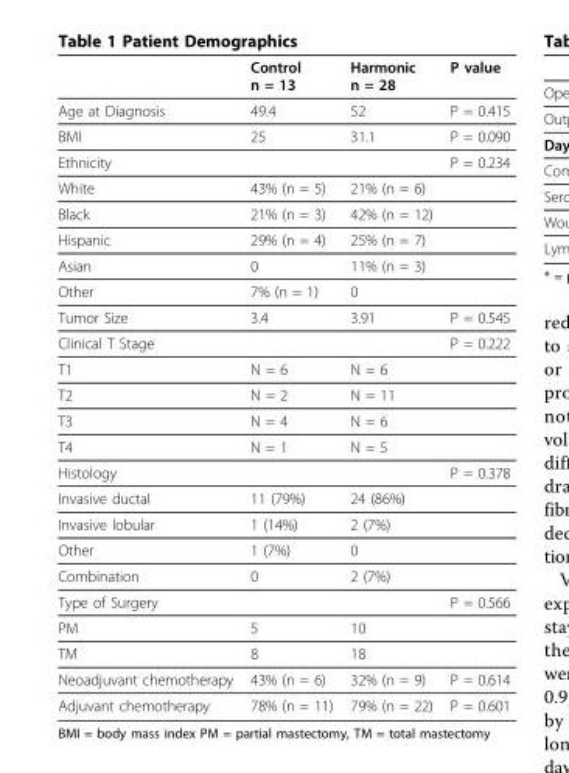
<table><thead><tr><td></td><td>Control n = 13</td><td>Harmonic n = 28</td><td>P value</td></tr></thead><tbody><tr><td>Age at Diagnosis</td><td>49.4</td><td>52</td><td>P = 0.415</td></tr><tr><td>BMI</td><td>25</td><td>31.1</td><td>P = 0.090</td></tr><tr><td>Ethnicity</td><td></td><td></td><td>P = 0.234</td></tr><tr><td>White</td><td>43% (n = 5)</td><td>21% (n = 6)</td><td></td></tr><tr><td>Black</td><td>21% (n = 3)</td><td>42% (n = 12)</td><td></td></tr><tr><td>Hispanic</td><td>29% (n = 4)</td><td>25% (n = 7)</td><td></td></tr><tr><td>Asian</td><td>0</td><td>11% (n = 3)</td><td></td></tr><tr><td>Other</td><td>7% (n = 1)</td><td>0</td><td></td></tr><tr><td>Tumor Size</td><td>3.4</td><td>3.91</td><td>P = 0.545</td></tr><tr><td>Clinical T Stage</td><td></td><td></td><td>P = 0.222</td></tr><tr><td>T1</td><td>N = 6</td><td>N = 6</td><td></td></tr><tr><td>T2</td><td>N = 2</td><td>N = 11</td><td></td></tr><tr><td>T3</td><td>N = 4</td><td>N = 6</td><td></td></tr><tr><td>T4</td><td>N = 1</td><td>N = 5</td><td></td></tr><tr><td>Histology</td><td></td><td></td><td>P = 0.378</td></tr><tr><td>Invasive ductal</td><td>11 (79%)</td><td>24 (86%)</td><td></td></tr><tr><td>Invasive lobular</td><td>1 (14%)</td><td>2 (7%)</td><td></td></tr><tr><td>Other</td><td>1 (7%)</td><td>0</td><td></td></tr><tr><td>Combination</td><td>0</td><td>2 (7%)</td><td></td></tr><tr><td>Type of Surgery</td><td></td><td></td><td>P = 0.566</td></tr><tr><td>PM</td><td>5</td><td>10</td><td></td></tr><tr><td>TM</td><td>8</td><td>18</td><td></td></tr><tr><td>Neoadjuvant chemotherapy</td><td>43% (n = 6)</td><td>32% (n = 9)</td><td>P = 0.614</td></tr><tr><td>Adjuvant chemotherapy</td><td>78% (n = 11)</td><td>79% (n = 22)</td><td>P = 0.601</td></tr></tbody></table>